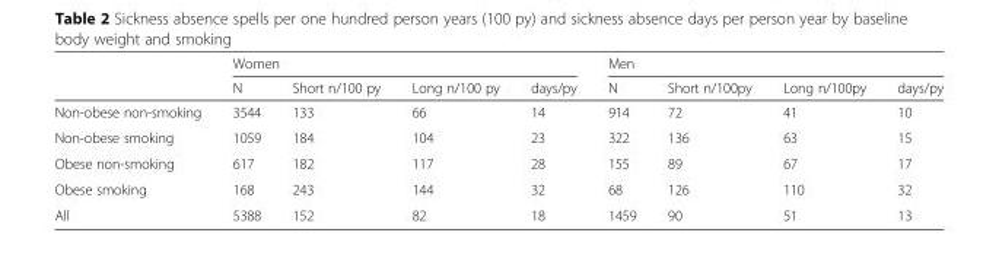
<table><thead><tr><td rowspan="2"></td><td colspan="4">Women</td><td colspan="4">Men</td></tr><tr><td>N</td><td>Short n/100 py</td><td>Long n/100 py</td><td>days/py</td><td>N</td><td>Short n/100py</td><td>Long n/100py</td><td>days/py</td></tr></thead><tbody><tr><td>Non-obese non-smoking</td><td>3544</td><td>133</td><td>66</td><td>14</td><td>914</td><td>72</td><td>41</td><td>10</td></tr><tr><td>Non-obese smoking</td><td>1059</td><td>184</td><td>104</td><td>23</td><td>322</td><td>136</td><td>63</td><td>15</td></tr><tr><td>Obese non-smoking</td><td>617</td><td>182</td><td>117</td><td>28</td><td>155</td><td>89</td><td>67</td><td>17</td></tr><tr><td>Obese smoking</td><td>168</td><td>243</td><td>144</td><td>32</td><td>68</td><td>126</td><td>110</td><td>32</td></tr><tr><td>All</td><td>5388</td><td>152</td><td>82</td><td>18</td><td>1459</td><td>90</td><td>51</td><td>13</td></tr></tbody></table>